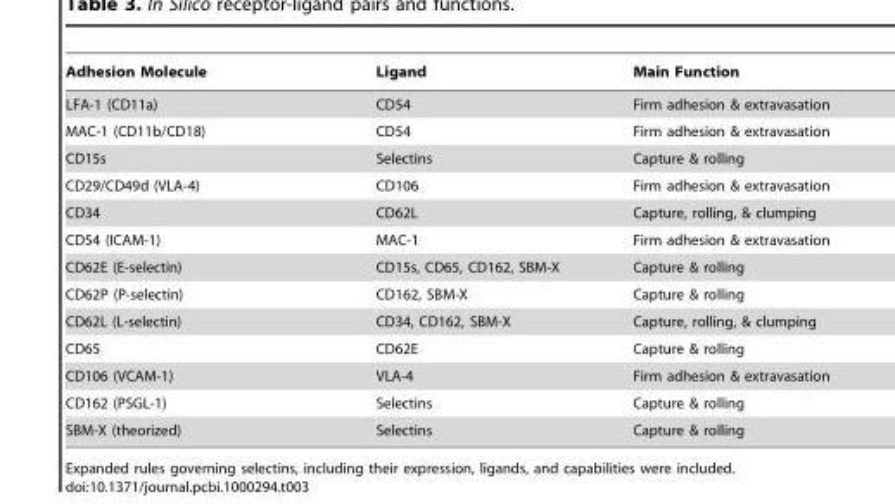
<table><thead><tr><td>Adhesion Molecule</td><td>Ligand</td><td>Main Function</td></tr></thead><tbody><tr><td>LFA-1 (CD11a)</td><td>CD54</td><td>Firm adhesion &amp; extravasation</td></tr><tr><td>MAC-1 (CD11b/CD18)</td><td>CD54</td><td>Firm adhesion &amp; extravasation</td></tr><tr><td>CD15s</td><td>Selectins</td><td>Capture &amp; rolling</td></tr><tr><td>CD29/CD49d (VLA-4)</td><td>CD106</td><td>Firm adhesion &amp; extravasation</td></tr><tr><td>CD34</td><td>CD62L</td><td>Capture, rolling, &amp; clumping</td></tr><tr><td>CD54 (ICAM-1)</td><td>MAC-1</td><td>Firm adhesion &amp; extravasation</td></tr><tr><td>CD62E (E-selectin)</td><td>CD15s, CD65, CD162, SBM-X</td><td>Capture &amp; rolling</td></tr><tr><td>CD62P (P-selectin)</td><td>CD162, SBM-X</td><td>Capture &amp; rolling</td></tr><tr><td>CD62L (L-selectin)</td><td>CD34, CD162, SBM-X</td><td>Capture, rolling, &amp; clumping</td></tr><tr><td>CD65</td><td>CD62E</td><td>Capture &amp; rolling</td></tr><tr><td>CD106 (VCAM-1)</td><td>VLA-4</td><td>Firm adhesion &amp; extravasation</td></tr><tr><td>CD162 (PSGL-1)</td><td>Selectins</td><td>Capture &amp; rolling</td></tr><tr><td>SBM-X (theorized)</td><td>Selectins</td><td>Capture &amp; rolling</td></tr></tbody></table>